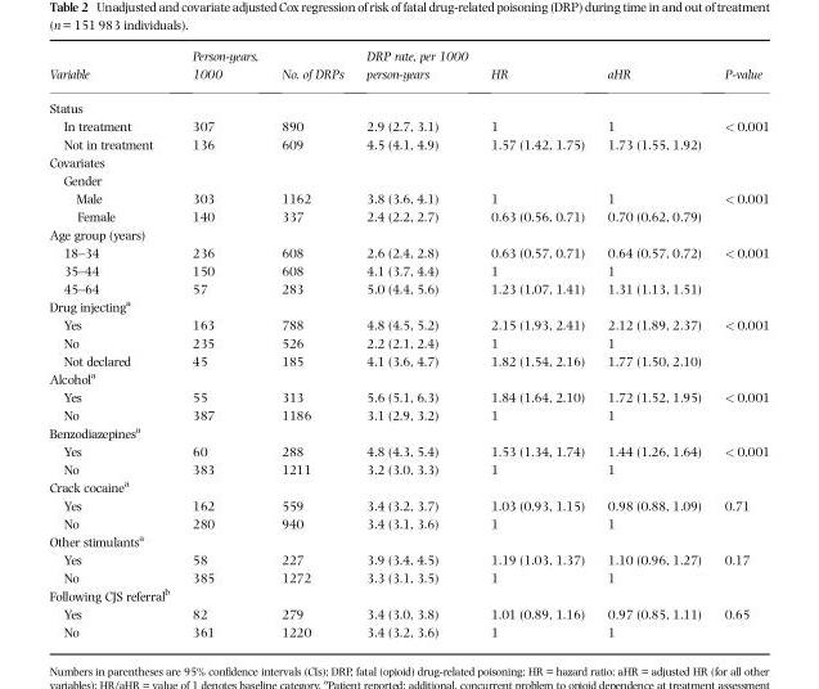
<table><thead><tr><td>Variable</td><td>Person-years, 1000</td><td>No. of DRPs</td><td>DRP rate, per 1000 person-years</td><td>HR</td><td>aHR</td><td>P-value</td></tr></thead><tbody><tr><td colspan="7">Status</td></tr><tr><td>In treatment</td><td>307</td><td>890</td><td>2.9 (2.7, 3.1)</td><td>1</td><td>1</td><td>&lt; 0.001</td></tr><tr><td>Not in treatment</td><td>136</td><td>609</td><td>4.5 (4.1, 4.9)</td><td>1.57 (1.42, 1.75)</td><td>1.73 (1.55, 1.92)</td><td></td></tr><tr><td colspan="7">Covariates</td></tr><tr><td colspan="7">Gender</td></tr><tr><td>Male</td><td>303</td><td>1162</td><td>3.8 (3.6, 4.1)</td><td>1</td><td>1</td><td>&lt; 0.001</td></tr><tr><td>Female</td><td>140</td><td>337</td><td>2.4 (2.2, 2.7)</td><td>0.63 (0.56, 0.71)</td><td>0.70 (0.62, 0.79)</td><td></td></tr><tr><td colspan="7">Age group (years)</td></tr><tr><td>18–34</td><td>236</td><td>608</td><td>2.6 (2.4, 2.8)</td><td>0.63 (0.57, 0.71)</td><td>0.64 (0.57, 0.72)</td><td>&lt; 0.001</td></tr><tr><td>35–44</td><td>150</td><td>608</td><td>4.1 (3.7, 4.4)</td><td>1</td><td>1</td><td></td></tr><tr><td>45–64</td><td>57</td><td>283</td><td>5.0 (4.4, 5.6)</td><td>1.23 (1.07, 1.41)</td><td>1.31 (1.13, 1.51)</td><td></td></tr><tr><td colspan="7">Drug injecting<sup>a</sup></td></tr><tr><td>Yes</td><td>163</td><td>788</td><td>4.8 (4.5, 5.2)</td><td>2.15 (1.93, 2.41)</td><td>2.12 (1.89, 2.37)</td><td>&lt; 0.001</td></tr><tr><td>No</td><td>235</td><td>526</td><td>2.2 (2.1, 2.4)</td><td>1</td><td>1</td><td></td></tr><tr><td>Not declared</td><td>45</td><td>185</td><td>4.1 (3.6, 4.7)</td><td>1.82 (1.54, 2.16)</td><td>1.77 (1.50, 2.10)</td><td></td></tr><tr><td colspan="7">Alcohol<sup>a</sup></td></tr><tr><td>Yes</td><td>55</td><td>313</td><td>5.6 (5.1, 6.3)</td><td>1.84 (1.64, 2.10)</td><td>1.72 (1.52, 1.95)</td><td>&lt; 0.001</td></tr><tr><td>No</td><td>387</td><td>1186</td><td>3.1 (2.9, 3.2)</td><td>1</td><td>1</td><td></td></tr><tr><td colspan="7">Benzodiazepines<sup>a</sup></td></tr><tr><td>Yes</td><td>60</td><td>288</td><td>4.8 (4.3, 5.4)</td><td>1.53 (1.34, 1.74)</td><td>1.44 (1.26, 1.64)</td><td>&lt; 0.001</td></tr><tr><td>No</td><td>383</td><td>1211</td><td>3.2 (3.0, 3.3)</td><td>1</td><td>1</td><td></td></tr><tr><td colspan="7">Crack cocaine<sup>a</sup></td></tr><tr><td>Yes</td><td>162</td><td>559</td><td>3.4 (3.2, 3.7)</td><td>1.03 (0.93, 1.15)</td><td>0.98 (0.88, 1.09)</td><td>0.71</td></tr><tr><td>No</td><td>280</td><td>940</td><td>3.4 (3.1, 3.6)</td><td>1</td><td>1</td><td></td></tr><tr><td colspan="7">Other stimulants<sup>a</sup></td></tr><tr><td>Yes</td><td>58</td><td>227</td><td>3.9 (3.4, 4.5)</td><td>1.19 (1.03, 1.37)</td><td>1.10 (0.96, 1.27)</td><td>0.17</td></tr><tr><td>No</td><td>385</td><td>1272</td><td>3.3 (3.1, 3.5)</td><td>1</td><td>1</td><td></td></tr><tr><td colspan="7">Following CJS referral<sup>b</sup></td></tr><tr><td>Yes</td><td>82</td><td>279</td><td>3.4 (3.0, 3.8)</td><td>1.01 (0.89, 1.16)</td><td>0.97 (0.85, 1.11)</td><td>0.65</td></tr><tr><td>No</td><td>361</td><td>1220</td><td>3.4 (3.2, 3.6)</td><td>1</td><td>1</td><td></td></tr></tbody></table>